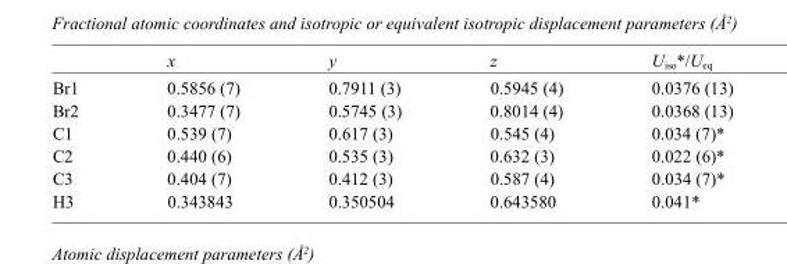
<table><thead><tr><td></td><td>x</td><td>y</td><td>z</td><td>U<sub>iso</sub>*/U<sub>eq</sub></td></tr></thead><tbody><tr><td>Br1</td><td>0.5856 (7)</td><td>0.7911 (3)</td><td>0.5945 (4)</td><td>0.0376 (13)</td></tr><tr><td>Br2</td><td>0.3477 (7)</td><td>0.5745 (3)</td><td>0.8014 (4)</td><td>0.0368 (13)</td></tr><tr><td>C1</td><td>0.539 (7)</td><td>0.617 (3)</td><td>0.545 (4)</td><td>0.034 (7)*</td></tr><tr><td>C2</td><td>0.440 (6)</td><td>0.535 (3)</td><td>0.632 (3)</td><td>0.022 (6)*</td></tr><tr><td>C3</td><td>0.404 (7)</td><td>0.412 (3)</td><td>0.587 (4)</td><td>0.034 (7)*</td></tr><tr><td>H3</td><td>0.343843</td><td>0.350504</td><td>0.643580</td><td>0.041*</td></tr></tbody></table>